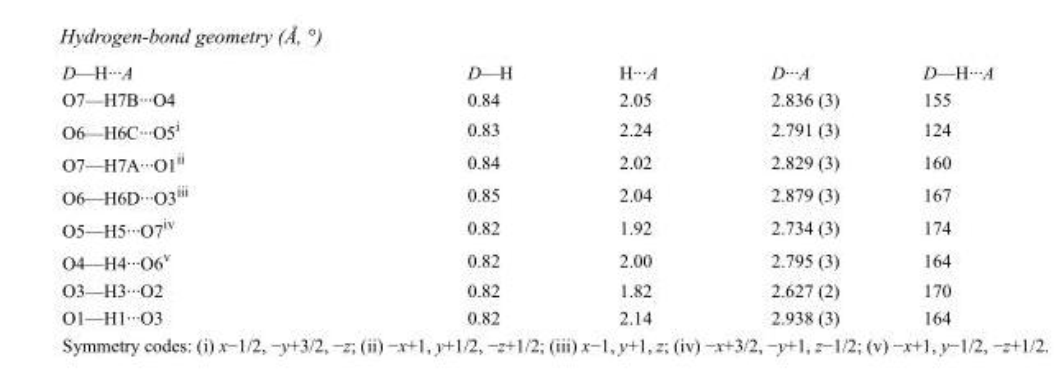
<table><tbody><tr><td>D—H···A</td><td>D—H</td><td>H···A</td><td>D···A</td><td>D—H···A</td></tr><tr><td>O7—H7B···O4</td><td>0.84</td><td>2.05</td><td>2.836 (3)</td><td>155</td></tr><tr><td>O6—H6C···O5<sup>i</sup></td><td>0.83</td><td>2.24</td><td>2.791 (3)</td><td>124</td></tr><tr><td>O7—H7A···O1<sup>ii</sup></td><td>0.84</td><td>2.02</td><td>2.829 (3)</td><td>160</td></tr><tr><td>O6—H6D···O3<sup>iii</sup></td><td>0.85</td><td>2.04</td><td>2.879 (3)</td><td>167</td></tr><tr><td>O5—H5···O7<sup>iv</sup></td><td>0.82</td><td>1.92</td><td>2.734 (3)</td><td>174</td></tr><tr><td>O4—H4···O6<sup>v</sup></td><td>0.82</td><td>2.00</td><td>2.795 (3)</td><td>164</td></tr><tr><td>O3—H3···O2</td><td>0.82</td><td>1.82</td><td>2.627 (2)</td><td>170</td></tr><tr><td>O1—H1···O3</td><td>0.82</td><td>2.14</td><td>2.938 (3)</td><td>164</td></tr></tbody></table>